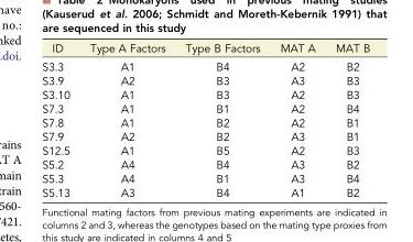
<table><thead><tr><td>ID</td><td>Type A Factors</td><td>Type B Factors</td><td>MAT A</td><td>MAT B</td></tr></thead><tbody><tr><td>S3.3</td><td>A1</td><td>B4</td><td>A2</td><td>B2</td></tr><tr><td>S3.9</td><td>A2</td><td>B3</td><td>A3</td><td>B3</td></tr><tr><td>S3.10</td><td>A1</td><td>B3</td><td>A2</td><td>B3</td></tr><tr><td>S7.3</td><td>A1</td><td>B1</td><td>A2</td><td>B4</td></tr><tr><td>S7.8</td><td>A1</td><td>B2</td><td>A2</td><td>B1</td></tr><tr><td>S7.9</td><td>A2</td><td>B2</td><td>A3</td><td>B1</td></tr><tr><td>S12.5</td><td>A1</td><td>B5</td><td>A2</td><td>B3</td></tr><tr><td>S5.2</td><td>A4</td><td>B4</td><td>A3</td><td>B2</td></tr><tr><td>S5.3</td><td>A4</td><td>B1</td><td>A3</td><td>B4</td></tr><tr><td>S5.13</td><td>A3</td><td>B4</td><td>A1</td><td>B2</td></tr></tbody></table>